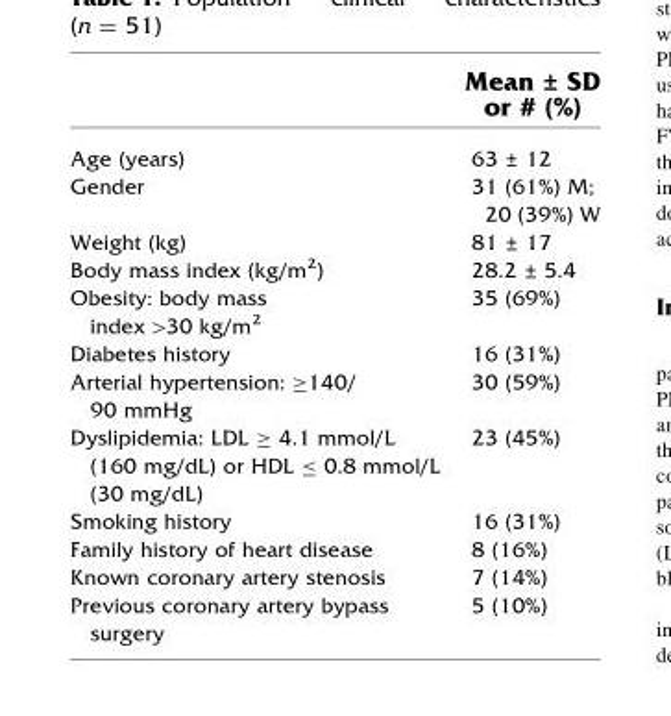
<table><thead><tr><td></td><td>Mean ± SD or # (%)</td></tr></thead><tbody><tr><td>Age (years)</td><td>63 ± 12</td></tr><tr><td>Gender</td><td>31 (61%) M; 20 (39%) W</td></tr><tr><td>Weight (kg)</td><td>81 ± 17</td></tr><tr><td>Body mass index (kg/m<sup>2</sup>)</td><td>28.2 ± 5.4</td></tr><tr><td>Obesity: body mass index &gt;30 kg/m<sup>2</sup></td><td>35 (69%)</td></tr><tr><td>Diabetes history</td><td>16 (31%)</td></tr><tr><td>Arterial hypertension: ≥140/ 90 mmHg</td><td>30 (59%)</td></tr><tr><td>Dyslipidemia: LDL ≥ 4.1 mmol/L (160 mg/dL) or HDL ≤ 0.8 mmol/L (30 mg/dL)</td><td>23 (45%)</td></tr><tr><td>Smoking history</td><td>16 (31%)</td></tr><tr><td>Family history of heart disease</td><td>8 (16%)</td></tr><tr><td>Known coronary artery stenosis</td><td>7 (14%)</td></tr><tr><td>Previous coronary artery bypass surgery</td><td>5 (10%)</td></tr></tbody></table>